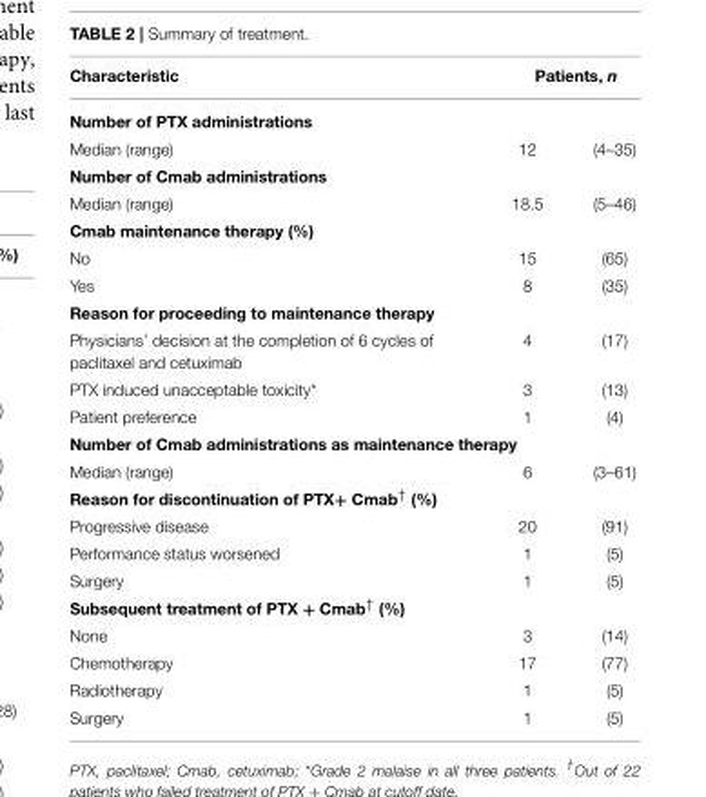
<table><thead><tr><td>Characteristic</td><td colspan="2">Patients, n</td></tr><tr><td colspan="3">Number of PTX administrations</td></tr><tr><td>Median (range)</td><td>12</td><td>(4–35)</td></tr></thead><tbody><tr><td colspan="3">Number of Cmab administrations</td></tr><tr><td>Median (range)</td><td>18.5</td><td>(5–46)</td></tr><tr><td colspan="3">Cmab maintenance therapy (%)</td></tr><tr><td>No</td><td>15</td><td>(65)</td></tr><tr><td>Yes</td><td>8</td><td>(35)</td></tr><tr><td colspan="3">Reason for proceeding to maintenance therapy</td></tr><tr><td>Physicians’ decision at the completion of 6 cycles of paclitaxel and cetuximab</td><td>4</td><td>(17)</td></tr><tr><td>PTX induced unacceptable toxicity*</td><td>3</td><td>(13)</td></tr><tr><td>Patient preference</td><td>1</td><td>(4)</td></tr><tr><td colspan="3">Number of Cmab administrations as maintenance therapy</td></tr><tr><td>Median (range)</td><td>6</td><td>(3–61)</td></tr><tr><td colspan="3">Reason for discontinuation of PTX+ Cmab<sup>†</sup> (%)</td></tr><tr><td>Progressive disease</td><td>20</td><td>(91)</td></tr><tr><td>Performance status worsened</td><td>1</td><td>(5)</td></tr><tr><td>Surgery</td><td>1</td><td>(5)</td></tr><tr><td colspan="3">Subsequent treatment of PTX + Cmab<sup>†</sup> (%)</td></tr><tr><td>None</td><td>3</td><td>(14)</td></tr><tr><td>Chemotherapy</td><td>17</td><td>(77)</td></tr><tr><td>Radiotherapy</td><td>1</td><td>(5)</td></tr><tr><td>Surgery</td><td>1</td><td>(5)</td></tr></tbody></table>